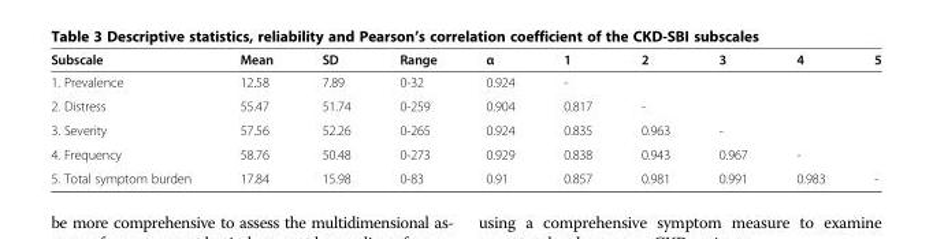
<table><thead><tr><td>Subscale</td><td>Mean</td><td>SD</td><td>Range</td><td>α</td><td>1</td><td>2</td><td>3</td><td>4</td><td>5</td></tr></thead><tbody><tr><td>1. Prevalence</td><td>12.58</td><td>7.89</td><td>0-32</td><td>0.924</td><td>-</td><td></td><td></td><td></td><td></td></tr><tr><td>2. Distress</td><td>55.47</td><td>51.74</td><td>0-259</td><td>0.904</td><td>0.817</td><td>-</td><td></td><td></td><td></td></tr><tr><td>3. Severity</td><td>57.56</td><td>52.26</td><td>0-265</td><td>0.924</td><td>0.835</td><td>0.963</td><td>-</td><td></td><td></td></tr><tr><td>4. Frequency</td><td>58.76</td><td>50.48</td><td>0-273</td><td>0.929</td><td>0.838</td><td>0.943</td><td>0.967</td><td>-</td><td></td></tr><tr><td>5. Total symptom burden</td><td>17.84</td><td>15.98</td><td>0-83</td><td>0.91</td><td>0.857</td><td>0.981</td><td>0.991</td><td>0.983</td><td>-</td></tr></tbody></table>